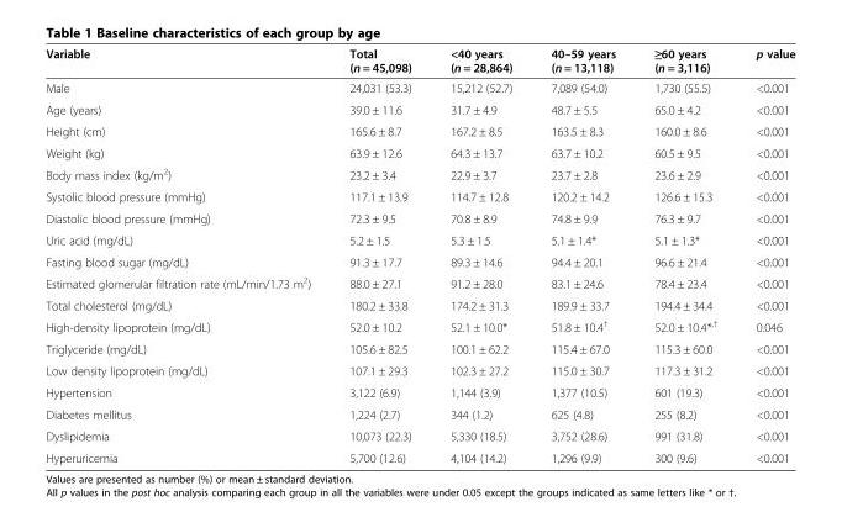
<table><thead><tr><td>Variable</td><td>Total (n = 45,098)</td><td>&lt;40 years (n = 28,864)</td><td>40–59 years (n = 13,118)</td><td>≥60 years (n = 3,116)</td><td>p value</td></tr></thead><tbody><tr><td>Male</td><td>24,031 (53.3)</td><td>15,212 (52.7)</td><td>7,089 (54.0)</td><td>1,730 (55.5)</td><td>&lt;0.001</td></tr><tr><td>Age (years)</td><td>39.0 ± 11.6</td><td>31.7 ± 4.9</td><td>48.7 ± 5.5</td><td>65.0 ± 4.2</td><td>&lt;0.001</td></tr><tr><td>Height (cm)</td><td>165.6 ± 8.7</td><td>167.2 ± 8.5</td><td>163.5 ± 8.3</td><td>160.0 ± 8.6</td><td>&lt;0.001</td></tr><tr><td>Weight (kg)</td><td>63.9 ± 12.6</td><td>64.3 ± 13.7</td><td>63.7 ± 10.2</td><td>60.5 ± 9.5</td><td>&lt;0.001</td></tr><tr><td>Body mass index (kg/m<sup>2</sup>)</td><td>23.2 ± 3.4</td><td>22.9 ± 3.7</td><td>23.7 ± 2.8</td><td>23.6 ± 2.9</td><td>&lt;0.001</td></tr><tr><td>Systolic blood pressure (mmHg)</td><td>117.1 ± 13.9</td><td>114.7 ± 12.8</td><td>120.2 ± 14.2</td><td>126.6 ± 15.3</td><td>&lt;0.001</td></tr><tr><td>Diastolic blood pressure (mmHg)</td><td>72.3 ± 9.5</td><td>70.8 ± 8.9</td><td>74.8 ± 9.9</td><td>76.3 ± 9.7</td><td>&lt;0.001</td></tr><tr><td>Uric acid (mg/dL)</td><td>5.2 ± 1.5</td><td>5.3 ± 1.5</td><td>5.1 ± 1.4*</td><td>5.1 ± 1.3*</td><td>&lt;0.001</td></tr><tr><td>Fasting blood sugar (mg/dL)</td><td>91.3 ± 17.7</td><td>89.3 ± 14.6</td><td>94.4 ± 20.1</td><td>96.6 ± 21.4</td><td>&lt;0.001</td></tr><tr><td>Estimated glomerular filtration rate (mL/min/1.73 m<sup>2</sup>)</td><td>88.0 ± 27.1</td><td>91.2 ± 28.0</td><td>83.1 ± 24.6</td><td>78.4 ± 23.4</td><td>&lt;0.001</td></tr><tr><td>Total cholesterol (mg/dL)</td><td>180.2 ± 33.8</td><td>174.2 ± 31.3</td><td>189.9 ± 33.7</td><td>194.4 ± 34.4</td><td>&lt;0.001</td></tr><tr><td>High-density lipoprotein (mg/dL)</td><td>52.0 ± 10.2</td><td>52.1 ± 10.0*</td><td>51.8 ± 10.4<sup>†</sup></td><td>52.0 ± 10.4*<sup>,†</sup></td><td>0.046</td></tr><tr><td>Triglyceride (mg/dL)</td><td>105.6 ± 82.5</td><td>100.1 ± 62.2</td><td>115.4 ± 67.0</td><td>115.3 ± 60.0</td><td>&lt;0.001</td></tr><tr><td>Low density lipoprotein (mg/dL)</td><td>107.1 ± 29.3</td><td>102.3 ± 27.2</td><td>115.0 ± 30.7</td><td>117.3 ± 31.2</td><td>&lt;0.001</td></tr><tr><td>Hypertension</td><td>3,122 (6.9)</td><td>1,144 (3.9)</td><td>1,377 (10.5)</td><td>601 (19.3)</td><td>&lt;0.001</td></tr><tr><td>Diabetes mellitus</td><td>1,224 (2.7)</td><td>344 (1.2)</td><td>625 (4.8)</td><td>255 (8.2)</td><td>&lt;0.001</td></tr><tr><td>Dyslipidemia</td><td>10,073 (22.3)</td><td>5,330 (18.5)</td><td>3,752 (28.6)</td><td>991 (31.8)</td><td>&lt;0.001</td></tr><tr><td>Hyperuricemia</td><td>5,700 (12.6)</td><td>4,104 (14.2)</td><td>1,296 (9.9)</td><td>300 (9.6)</td><td>&lt;0.001</td></tr></tbody></table>